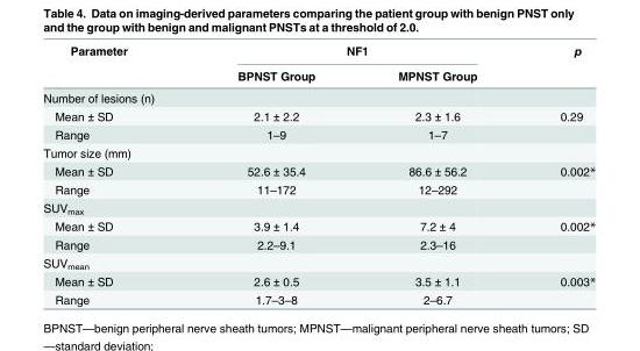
<table><thead><tr><td rowspan="2">Parameter</td><td colspan="2">NF1</td><td rowspan="2">p</td></tr><tr><td>BPNST Group</td><td>MPNST Group</td></tr></thead><tbody><tr><td colspan="4">Number of lesions (n)</td></tr><tr><td>Mean ± SD</td><td>2.1 ± 2.2</td><td>2.3 ± 1.6</td><td>0.29</td></tr><tr><td>Range</td><td>1–9</td><td>1–7</td><td></td></tr><tr><td colspan="4">Tumor size (mm)</td></tr><tr><td>Mean ± SD</td><td>52.6 ± 35.4</td><td>86.6 ± 56.2</td><td>0.002*</td></tr><tr><td>Range</td><td>11–172</td><td>12–292</td><td></td></tr><tr><td colspan="4">SUV<sub>max</sub></td></tr><tr><td>Mean ± SD</td><td>3.9 ± 1.4</td><td>7.2 ± 4</td><td>0.002*</td></tr><tr><td>Range</td><td>2.2–9.1</td><td>2.3–16</td><td></td></tr><tr><td colspan="4">SUV<sub>mean</sub></td></tr><tr><td>Mean ± SD</td><td>2.6 ± 0.5</td><td>3.5 ± 1.1</td><td>0.003*</td></tr><tr><td>Range</td><td>1.7–3–8</td><td>2–6.7</td><td></td></tr></tbody></table>